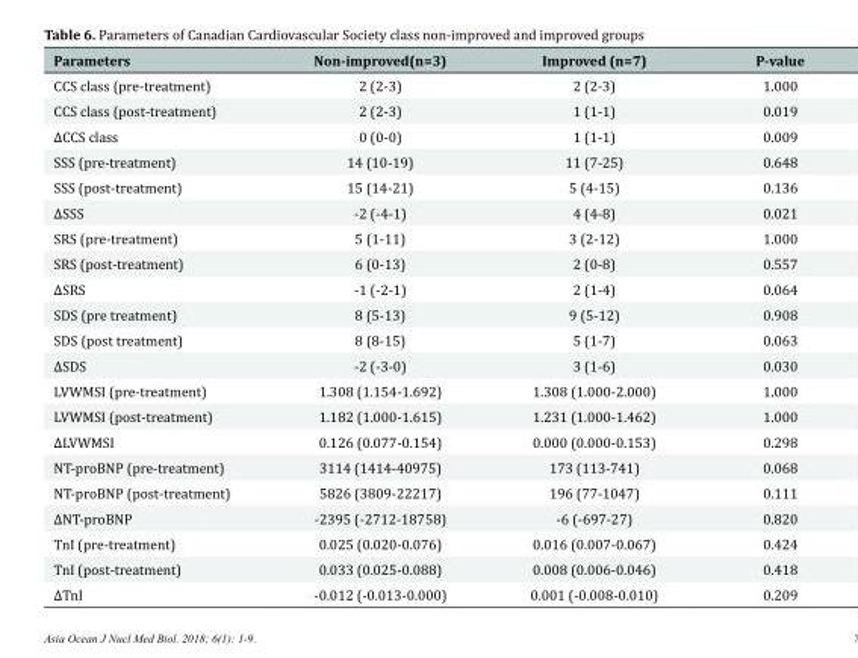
<table><thead><tr><td>Parameters</td><td>Non-improved(n=3)</td><td>Improved (n=7)</td><td>P-value</td></tr></thead><tbody><tr><td>CCS class (pre-treatment)</td><td>2 (2-3)</td><td>2 (2-3)</td><td>1.000</td></tr><tr><td>CCS class (post-treatment)</td><td>2 (2-3)</td><td>1 (1-1)</td><td>0.019</td></tr><tr><td>ΔCCS class</td><td>0 (0-0)</td><td>1 (1-1)</td><td>0.009</td></tr><tr><td>SSS (pre-treatment)</td><td>14 (10-19)</td><td>11 (7-25)</td><td>0.648</td></tr><tr><td>SSS (post-treatment)</td><td>15 (14-21)</td><td>5 (4-15)</td><td>0.136</td></tr><tr><td>ΔSSS</td><td>-2 (-4-1)</td><td>4 (4-8)</td><td>0.021</td></tr><tr><td>SRS (pre-treatment)</td><td>5 (1-11)</td><td>3 (2-12)</td><td>1.000</td></tr><tr><td>SRS (post-treatment)</td><td>6 (0-13)</td><td>2 (0-8)</td><td>0.557</td></tr><tr><td>ΔSRS</td><td>-1 (-2-1)</td><td>2 (1-4)</td><td>0.064</td></tr><tr><td>SDS (pre treatment)</td><td>8 (5-13)</td><td>9 (5-12)</td><td>0.908</td></tr><tr><td>SDS (post treatment)</td><td>8 (8-15)</td><td>5 (1-7)</td><td>0.063</td></tr><tr><td>ΔSDS</td><td>-2 (-3-0)</td><td>3 (1-6)</td><td>0.030</td></tr><tr><td>LVWMSI (pre-treatment)</td><td>1.308 (1.154-1.692)</td><td>1.308 (1.000-2.000)</td><td>1.000</td></tr><tr><td>LVWMSI (post-treatment)</td><td>1.182 (1.000-1.615)</td><td>1.231 (1.000-1.462)</td><td>1.000</td></tr><tr><td>ΔLVWMSI</td><td>0.126 (0.077-0.154)</td><td>0.000 (0.000-0.153)</td><td>0.298</td></tr><tr><td>NT-proBNP (pre-treatment)</td><td>3114 (1414-40975)</td><td>173 (113-741)</td><td>0.068</td></tr><tr><td>NT-proBNP (post-treatment)</td><td>5826 (3809-22217)</td><td>196 (77-1047)</td><td>0.111</td></tr><tr><td>ΔNT-proBNP</td><td>-2395 (-2712-18758)</td><td>-6 (-697-27)</td><td>0.820</td></tr><tr><td>TnI (pre-treatment)</td><td>0.025 (0.020-0.076)</td><td>0.016 (0.007-0.067)</td><td>0.424</td></tr><tr><td>TnI (post-treatment)</td><td>0.033 (0.025-0.088)</td><td>0.008 (0.006-0.046)</td><td>0.418</td></tr><tr><td>ΔTnI</td><td>-0.012 (-0.013-0.000)</td><td>0.001 (-0.008-0.010)</td><td>0.209</td></tr></tbody></table>